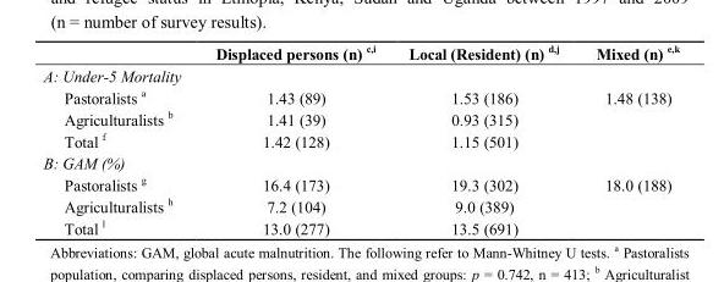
<table><thead><tr><td></td><td>Displaced persons (n) <sup>c,i</sup></td><td>Local (Resident) (n) <sup>d,j</sup></td><td>Mixed (n) <sup>e,k</sup></td></tr></thead><tbody><tr><td colspan="4">A: Under-5 Mortality</td></tr><tr><td>Pastoralists <sup>a</sup></td><td>1.43 (89)</td><td>1.53 (186)</td><td>1.48 (138)</td></tr><tr><td>Agriculturalists <sup>b</sup></td><td>1.41 (39)</td><td>0.93 (315)</td><td></td></tr><tr><td>Total <sup>f</sup></td><td>1.42 (128)</td><td>1.15 (501)</td><td></td></tr><tr><td colspan="4">B: GAM (%)</td></tr><tr><td>Pastoralists <sup>g</sup></td><td>16.4 (173)</td><td>19.3 (302)</td><td>18.0 (188)</td></tr><tr><td>Agriculturalists <sup>h</sup></td><td>7.2 (104)</td><td>9.0 (389)</td><td></td></tr><tr><td>Total <sup>l</sup></td><td>13.0 (277)</td><td>13.5 (691)</td><td></td></tr></tbody></table>